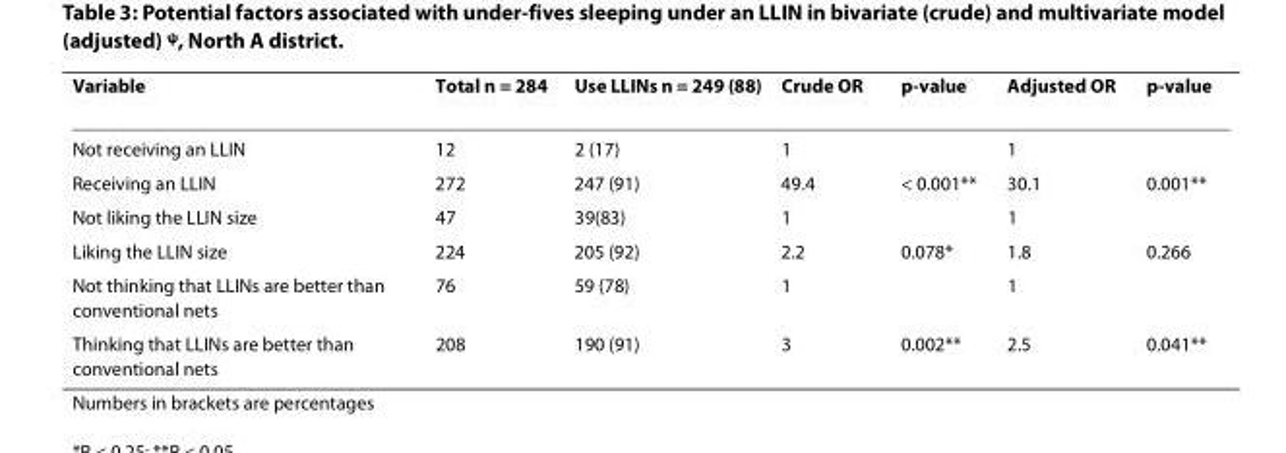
<table><thead><tr><td>Variable</td><td>Total n = 284</td><td>Use LLINs n = 249 (88)</td><td>Crude OR</td><td>p-value</td><td>Adjusted OR</td><td>p-value</td></tr></thead><tbody><tr><td>Not receiving an LLIN</td><td>12</td><td>2 (17)</td><td>1</td><td></td><td>1</td><td></td></tr><tr><td>Receiving an LLIN</td><td>272</td><td>247 (91)</td><td>49.4</td><td>&lt; 0.001**</td><td>30.1</td><td>0.001**</td></tr><tr><td>Not liking the LLIN size</td><td>47</td><td>39(83)</td><td>1</td><td></td><td>1</td><td></td></tr><tr><td>Liking the LLIN size</td><td>224</td><td>205 (92)</td><td>2.2</td><td>0.078*</td><td>1.8</td><td>0.266</td></tr><tr><td>Not thinking that LLINs are better than conventional nets</td><td>76</td><td>59 (78)</td><td>1</td><td></td><td>1</td><td></td></tr><tr><td>Thinking that LLINs are better than conventional nets</td><td>208</td><td>190 (91)</td><td>3</td><td>0.002**</td><td>2.5</td><td>0.041**</td></tr></tbody></table>